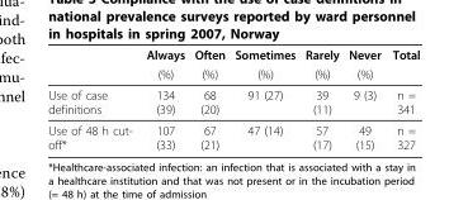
<table><thead><tr><td rowspan="2"></td><td rowspan="2">Always (%)</td><td rowspan="2">Often (%)</td><td rowspan="2">Sometimes (%)</td><td rowspan="2">Rarely (%)</td><td rowspan="2">Never (%)</td><td rowspan="2">Total</td></tr><tr></tr></thead><tbody><tr><td>Use of case definitions</td><td>134 (39)</td><td>68 (20)</td><td>91 (27)</td><td>39 (11)</td><td>9 (3)</td><td>n = 341</td></tr><tr><td>Use of 48 h cut- off*</td><td>107 (33)</td><td>67 (21)</td><td>47 (14)</td><td>57 (17)</td><td>49 (15)</td><td>n = 327</td></tr></tbody></table>